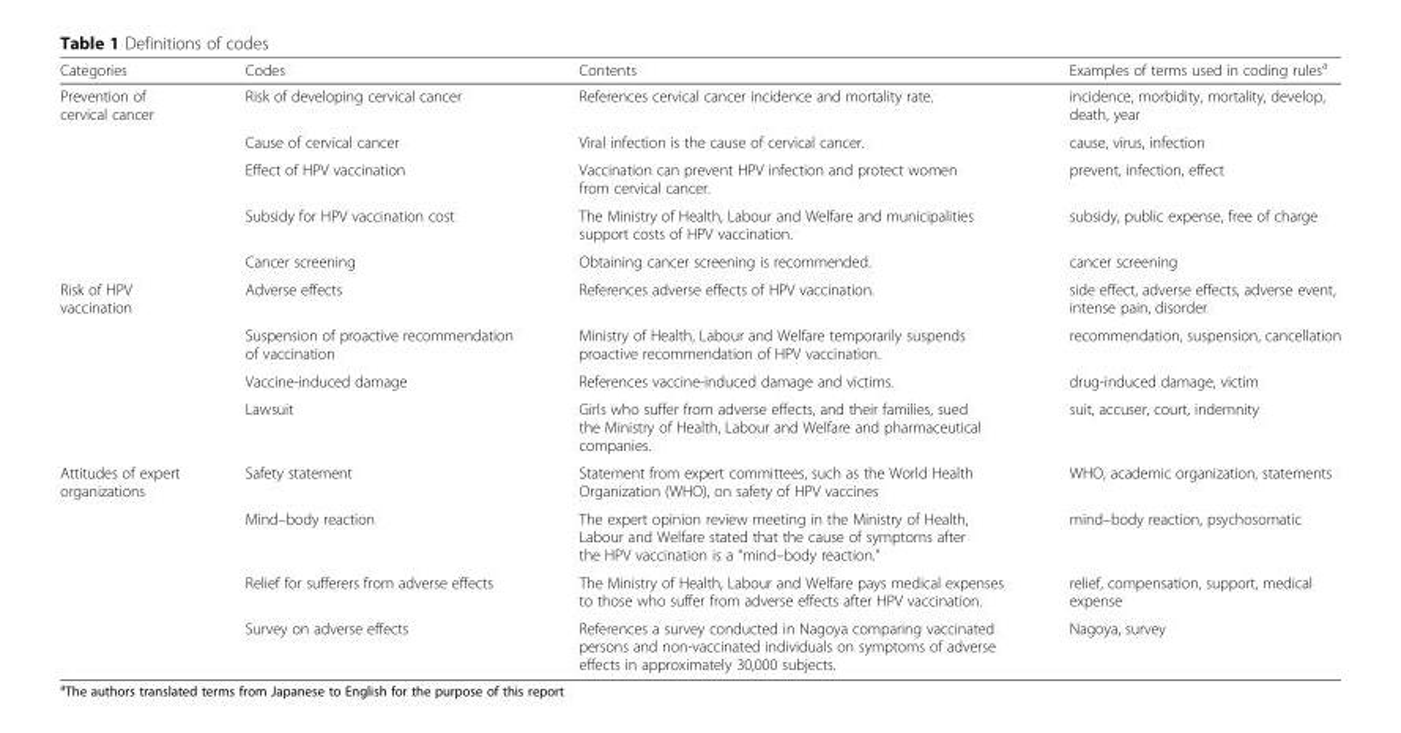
<table><thead><tr><td>Categories</td><td>Codes</td><td>Contents</td><td>Examples of terms used in coding rules<sup>a</sup></td></tr></thead><tbody><tr><td rowspan="5">Prevention of cervical cancer</td><td>Risk of developing cervical cancer</td><td>References cervical cancer incidence and mortality rate.</td><td>incidence, morbidity, mortality, develop, death, year</td></tr><tr><td>Cause of cervical cancer</td><td>Viral infection is the cause of cervical cancer.</td><td>cause, virus, infection</td></tr><tr><td>Effect of HPV vaccination</td><td>Vaccination can prevent HPV infection and protect women from cervical cancer.</td><td>prevent, infection, effect</td></tr><tr><td>Subsidy for HPV vaccination cost</td><td>The Ministry of Health, Labour and Welfare and municipalities support costs of HPV vaccination.</td><td>subsidy, public expense, free of charge</td></tr><tr><td>Cancer screening</td><td>Obtaining cancer screening is recommended.</td><td>cancer screening</td></tr><tr><td rowspan="4">Risk of HPV vaccination</td><td>Adverse effects</td><td>References adverse effects of HPV vaccination.</td><td>side effect, adverse effects, adverse event, intense pain, disorder</td></tr><tr><td>Suspension of proactive recommendation of vaccination</td><td>Ministry of Health, Labour and Welfare temporarily suspends proactive recommendation of HPV vaccination.</td><td>recommendation, suspension, cancellation</td></tr><tr><td>Vaccine-induced damage</td><td>References vaccine-induced damage and victims.</td><td>drug-induced damage, victim</td></tr><tr><td>Lawsuit</td><td>Girls who suffer from adverse effects, and their families, sued the Ministry of Health, Labour and Welfare and pharmaceutical companies.</td><td>suit, accuser, court, indemnity</td></tr><tr><td rowspan="4">Attitudes of expert organizations</td><td>Safety statement</td><td>Statement from expert committees, such as the World Health Organization (WHO), on safety of HPV vaccines</td><td>WHO, academic organization, statements</td></tr><tr><td>Mind–body reaction</td><td>The expert opinion review meeting in the Ministry of Health, Labour and Welfare stated that the cause of symptoms after the HPV vaccination is a “mind–body reaction.”</td><td>mind–body reaction, psychosomatic</td></tr><tr><td>Relief for sufferers from adverse effects</td><td>The Ministry of Health, Labour and Welfare pays medical expenses to those who suffer from adverse effects after HPV vaccination.</td><td>relief, compensation, support, medical expense</td></tr><tr><td>Survey on adverse effects</td><td>References a survey conducted in Nagoya comparing vaccinated persons and non-vaccinated individuals on symptoms of adverse effects in approximately 30,000 subjects.</td><td>Nagoya, survey</td></tr></tbody></table>